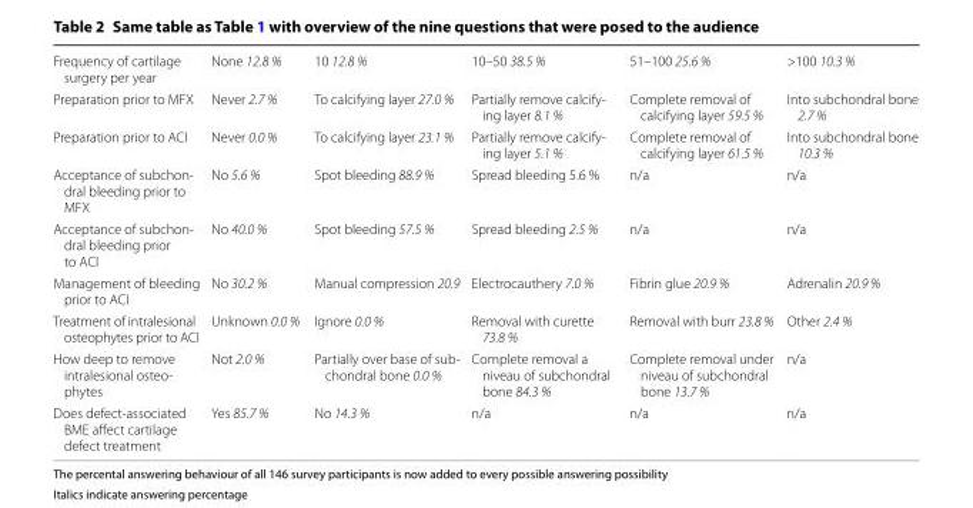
<table><tbody><tr><td>Frequency of cartilage surgery per year</td><td>None 12.8 %</td><td>10 12.8 %</td><td>10–50 38.5 %</td><td>51–100 25.6 %</td><td>&gt;100 10.3 %</td></tr><tr><td>Preparation prior to MFX</td><td>Never 2.7 %</td><td>To calcifying layer 27.0 %</td><td>Partially remove calcify- ing layer 8.1 %</td><td>Complete removal of calcifying layer 59.5 %</td><td>Into subchondral bone 2.7 %</td></tr><tr><td>Preparation prior to ACI</td><td>Never 0.0 %</td><td>To calcifying layer 23.1 %</td><td>Partially remove calcify- ing layer 5.1 %</td><td>Complete removal of calcifying layer 61.5 %</td><td>Into subchondral bone 10.3 %</td></tr><tr><td>Acceptance of subchon- dral bleeding prior to MFX</td><td>No 5.6 %</td><td>Spot bleeding 88.9 %</td><td>Spread bleeding 5.6 %</td><td>n/a</td><td>n/a</td></tr><tr><td>Acceptance of subchon- dral bleeding prior to ACI</td><td>No 40.0 %</td><td>Spot bleeding 57.5 %</td><td>Spread bleeding 2.5 %</td><td>n/a</td><td>n/a</td></tr><tr><td>Management of bleeding prior to ACI</td><td>No 30.2 %</td><td>Manual compression 20.9</td><td>Electrocauthery 7.0 %</td><td>Fibrin glue 20.9 %</td><td>Adrenalin 20.9 %</td></tr><tr><td>Treatment of intralesional osteophytes prior to ACI</td><td>Unknown 0.0 %</td><td>Ignore 0.0 %</td><td>Removal with curette 73.8 %</td><td>Removal with burr 23.8 %</td><td>Other 2.4 %</td></tr><tr><td>How deep to remove intralesional osteo- phytes</td><td>Not 2.0 %</td><td>Partially over base of sub- chondral bone 0.0 %</td><td>Complete removal a niveau of subchondral bone 84.3 %</td><td>Complete removal under niveau of subchondral bone 13.7 %</td><td>n/a</td></tr><tr><td>Does defect-associated BME affect cartilage defect treatment</td><td>Yes 85.7 %</td><td>No 14.3 %</td><td>n/a</td><td>n/a</td><td>n/a</td></tr></tbody></table>